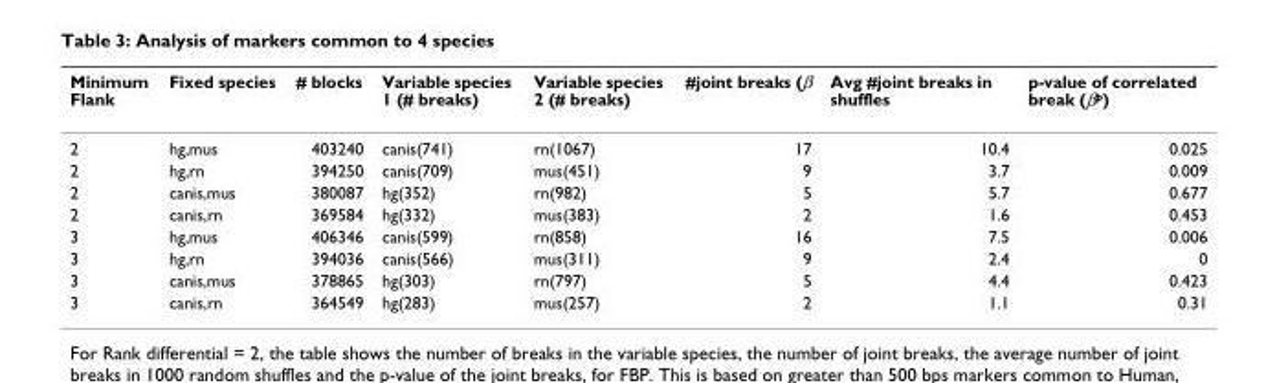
<table><thead><tr><td>Minimum Flank</td><td>Fixed species</td><td># blocks</td><td>Variable species 1 (# breaks)</td><td>Variable species 2 (# breaks)</td><td>#joint breaks (β</td><td>Avg #joint breaks in shuffles</td><td>p-value of correlated break (β<sup>p</sup>)</td></tr></thead><tbody><tr><td>2</td><td>hg,mus</td><td>403240</td><td>canis(741)</td><td>rn(1067)</td><td>17</td><td>10.4</td><td>0.025</td></tr><tr><td>2</td><td>hg,rn</td><td>394250</td><td>canis(709)</td><td>mus(451)</td><td>9</td><td>3.7</td><td>0.009</td></tr><tr><td>2</td><td>canis,mus</td><td>380087</td><td>hg(352)</td><td>rn(982)</td><td>5</td><td>5.7</td><td>0.677</td></tr><tr><td>2</td><td>canis,rn</td><td>369584</td><td>hg(332)</td><td>mus(383)</td><td>2</td><td>1.6</td><td>0.453</td></tr><tr><td>3</td><td>hg,mus</td><td>406346</td><td>canis(599)</td><td>rn(858)</td><td>16</td><td>7.5</td><td>0.006</td></tr><tr><td>3</td><td>hg,rn</td><td>394036</td><td>canis(566)</td><td>mus(311)</td><td>9</td><td>2.4</td><td>0</td></tr><tr><td>3</td><td>canis,mus</td><td>378865</td><td>hg(303)</td><td>rn(797)</td><td>5</td><td>4.4</td><td>0.423</td></tr><tr><td>3</td><td>canis,rn</td><td>364549</td><td>hg(283)</td><td>mus(257)</td><td>2</td><td>1.1</td><td>0.31</td></tr></tbody></table>